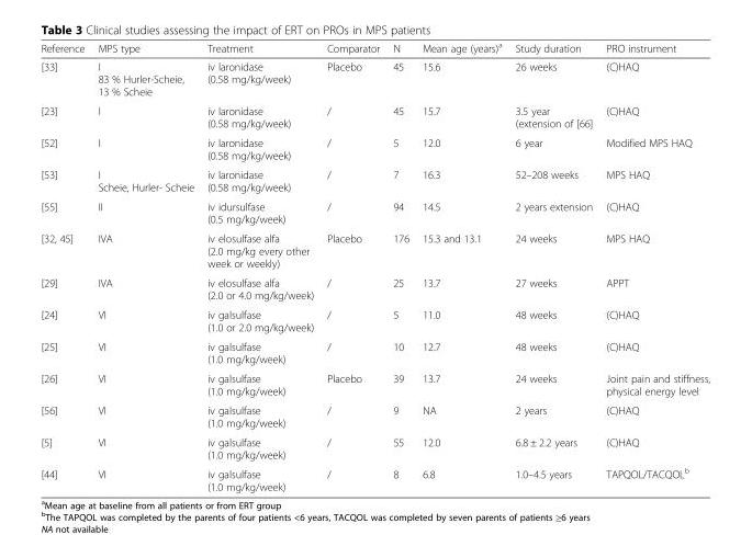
<table><thead><tr><td>Reference</td><td>MPS type</td><td>Treatment</td><td>Comparator</td><td>N</td><td>Mean age (years)<sup>a</sup></td><td>Study duration</td><td>PRO instrument</td></tr></thead><tbody><tr><td>[33]</td><td>I 83 % Hurler-Scheie, 13 % Scheie</td><td>iv laronidase (0.58 mg/kg/week)</td><td>Placebo</td><td>45</td><td>15.6</td><td>26 weeks</td><td>(C)HAQ</td></tr><tr><td>[23]</td><td>I</td><td>iv laronidase (0.58 mg/kg/week)</td><td>/</td><td>45</td><td>15.7</td><td>3.5 year (extension of [66]</td><td>(C)HAQ</td></tr><tr><td>[52]</td><td>I</td><td>iv laronidase (0.58 mg/kg/week)</td><td>/</td><td>5</td><td>12.0</td><td>6 year</td><td>Modified MPS HAQ</td></tr><tr><td>[53]</td><td>I Scheie, Hurler- Scheie</td><td>iv laronidase (0.58 mg/kg/week)</td><td>/</td><td>7</td><td>16.3</td><td>52–208 weeks</td><td>MPS HAQ</td></tr><tr><td>[55]</td><td>II</td><td>iv idursulfase (0.5 mg/kg/week)</td><td>/</td><td>94</td><td>14.5</td><td>2 years extension</td><td>(C)HAQ</td></tr><tr><td>[32, 45]</td><td>IVA</td><td>iv elosulfase alfa (2.0 mg/kg every other week or weekly)</td><td>Placebo</td><td>176</td><td>15.3 and 13.1</td><td>24 weeks</td><td>MPS HAQ</td></tr><tr><td>[29]</td><td>IVA</td><td>iv elosulfase alfa (2.0 or 4.0 mg/kg/week)</td><td>/</td><td>25</td><td>13.7</td><td>27 weeks</td><td>APPT</td></tr><tr><td>[24]</td><td>VI</td><td>iv galsulfase (1.0 or 2.0 mg/kg/week)</td><td>/</td><td>5</td><td>11.0</td><td>48 weeks</td><td>(C)HAQ</td></tr><tr><td>[25]</td><td>VI</td><td>iv galsulfase (1.0 mg/kg/week)</td><td>/</td><td>10</td><td>12.7</td><td>48 weeks</td><td>(C)HAQ</td></tr><tr><td>[26]</td><td>VI</td><td>iv galsulfase (1.0 mg/kg/week)</td><td>Placebo</td><td>39</td><td>13.7</td><td>24 weeks</td><td>Joint pain and stiffness, physical energy level</td></tr><tr><td>[56]</td><td>VI</td><td>iv galsulfase (1.0 mg/kg/week)</td><td>/</td><td>9</td><td>NA</td><td>2 years</td><td>(C)HAQ</td></tr><tr><td>[5]</td><td>VI</td><td>iv galsulfase (1.0 mg/kg/week)</td><td>/</td><td>55</td><td>12.0</td><td>6.8 ± 2.2 years</td><td>(C)HAQ</td></tr><tr><td>[44]</td><td>VI</td><td>iv galsulfase (1.0 mg/kg/week)</td><td>/</td><td>8</td><td>6.8</td><td>1.0–4.5 years</td><td>TAPQOL/TACQOL<sup>b</sup></td></tr></tbody></table>